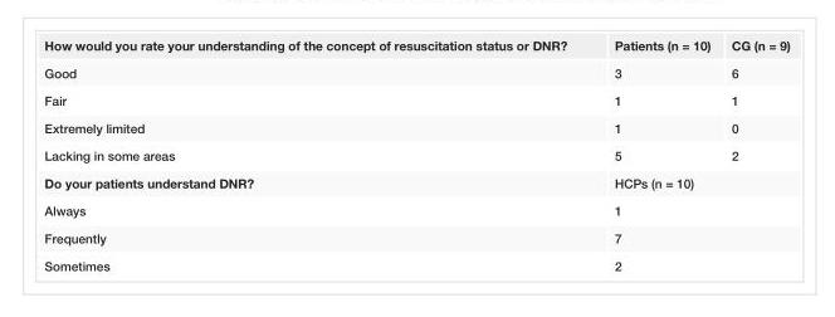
<table><tbody><tr><td>How would you rate your understanding of the concept of resuscitation status or DNR?</td><td>Patients (n = 10)</td><td>CG (n = 9)</td></tr><tr><td>Good</td><td>3</td><td>6</td></tr><tr><td>Fair</td><td>1</td><td>1</td></tr><tr><td>Extremely limited</td><td>1</td><td>0</td></tr><tr><td>Lacking in some areas</td><td>5</td><td>2</td></tr><tr><td>Do your patients understand DNR?</td><td colspan="2">HCPs (n = 10)</td></tr><tr><td>Always</td><td colspan="2">1</td></tr><tr><td>Frequently</td><td colspan="2">7</td></tr><tr><td>Sometimes</td><td colspan="2">2</td></tr></tbody></table>